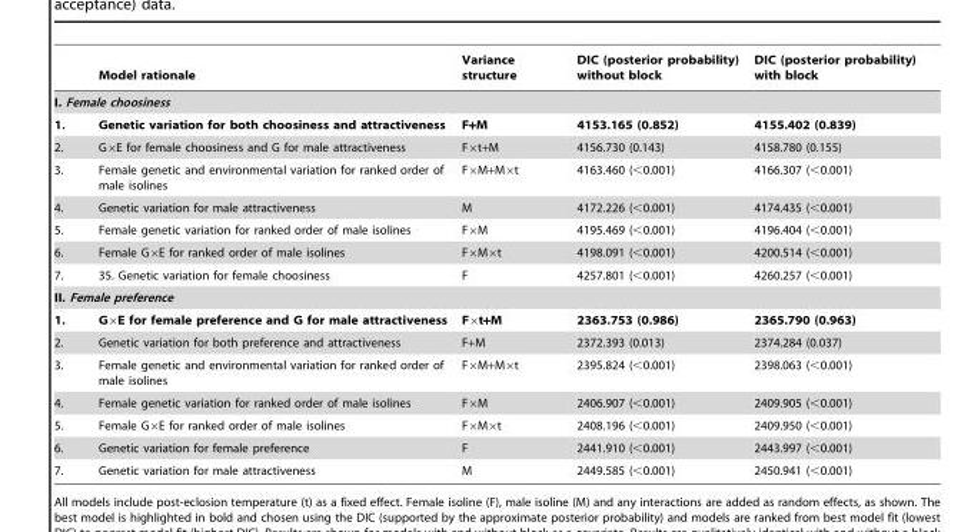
<table><thead><tr><td></td><td>Model rationale</td><td>Variance structure</td><td>DIC (posterior probability) without block</td><td>DIC (posterior probability) with block</td></tr></thead><tbody><tr><td colspan="5">I. Female choosiness</td></tr><tr><td>1.</td><td>Genetic variation for both choosiness and attractiveness</td><td>F+M</td><td>4153.165 (0.852)</td><td>4155.402 (0.839)</td></tr><tr><td>2.</td><td>G×E for female choosiness and G for male attractiveness</td><td>F×t+M</td><td>4156.730 (0.143)</td><td>4158.780 (0.155)</td></tr><tr><td>3.</td><td>Female genetic and environmental variation for ranked order of male isolines</td><td>F×M+M×t</td><td>4163.460 (&lt;0.001)</td><td>4166.307 (&lt;0.001)</td></tr><tr><td>4.</td><td>Genetic variation for male attractiveness</td><td>M</td><td>4172.226 (&lt;0.001)</td><td>4174.435 (&lt;0.001)</td></tr><tr><td>5.</td><td>Female genetic variation for ranked order of male isolines</td><td>F×M</td><td>4195.469 (&lt;0.001)</td><td>4196.404 (&lt;0.001)</td></tr><tr><td>6.</td><td>Female G×E for ranked order of male isolines</td><td>F×M×t</td><td>4198.091 (&lt;0.001)</td><td>4200.514 (&lt;0.001)</td></tr><tr><td>7.</td><td>35. Genetic variation for female choosiness</td><td>F</td><td>4257.801 (&lt;0.001)</td><td>4260.257 (&lt;0.001)</td></tr><tr><td colspan="5">II. Female preference</td></tr><tr><td>1.</td><td>G×E for female preference and G for male attractiveness</td><td>F×t+M</td><td>2363.753 (0.986)</td><td>2365.790 (0.963)</td></tr><tr><td>2.</td><td>Genetic variation for both preference and attractiveness</td><td>F+M</td><td>2372.393 (0.013)</td><td>2374.284 (0.037)</td></tr><tr><td>3.</td><td>Female genetic and environmental variation for ranked order of male isolines</td><td>F×M+M×t</td><td>2395.824 (&lt;0.001)</td><td>2398.063 (&lt;0.001)</td></tr><tr><td>4.</td><td>Female genetic variation for ranked order of male isolines</td><td>F×M</td><td>2406.907 (&lt;0.001)</td><td>2409.905 (&lt;0.001)</td></tr><tr><td>5.</td><td>Female G×E for ranked order of male isolines</td><td>F×M×t</td><td>2408.196 (&lt;0.001)</td><td>2409.950 (&lt;0.001)</td></tr><tr><td>6.</td><td>Genetic variation for female preference</td><td>F</td><td>2441.910 (&lt;0.001)</td><td>2443.997 (&lt;0.001)</td></tr><tr><td>7.</td><td>Genetic variation for male attractiveness</td><td>M</td><td>2449.585 (&lt;0.001)</td><td>2450.941 (&lt;0.001)</td></tr></tbody></table>